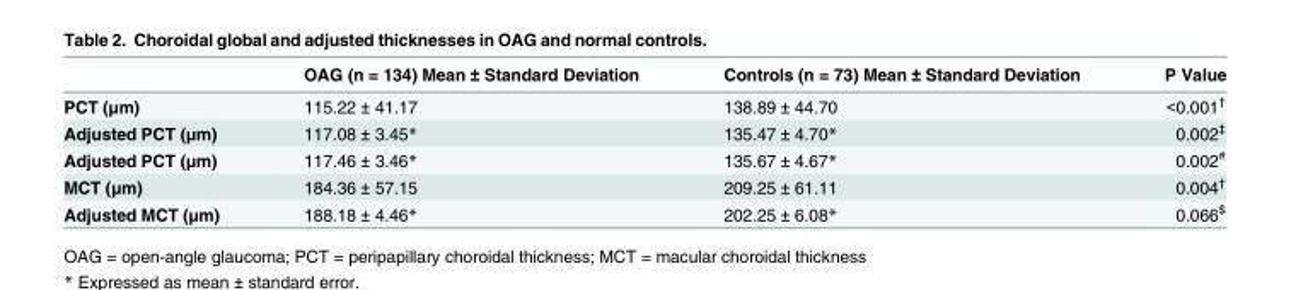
<table><thead><tr><td></td><td>OAG (n = 134) Mean ± Standard Deviation</td><td>Controls (n = 73) Mean ± Standard Deviation</td><td>P Value</td></tr></thead><tbody><tr><td>PCT (μm)</td><td>115.22 ± 41.17</td><td>138.89 ± 44.70</td><td>&lt;0.001<sup>†</sup></td></tr><tr><td>Adjusted PCT (μm)</td><td>117.08 ± 3.45*</td><td>135.47 ± 4.70*</td><td>0.002<sup>‡</sup></td></tr><tr><td>Adjusted PCT (μm)</td><td>117.46 ± 3.46*</td><td>135.67 ± 4.67*</td><td>0.002<sup>#</sup></td></tr><tr><td>MCT (μm)</td><td>184.36 ± 57.15</td><td>209.25 ± 61.11</td><td>0.004<sup>†</sup></td></tr><tr><td>Adjusted MCT (μm)</td><td>188.18 ± 4.46*</td><td>202.25 ± 6.08*</td><td>0.066<sup>$</sup></td></tr></tbody></table>